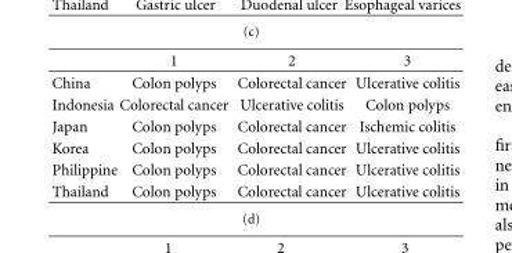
<table><thead><tr><td></td><td>1</td><td>2</td><td>3</td></tr></thead><tbody><tr><td>China</td><td>Colon polyps</td><td>Colorectal cancer</td><td>Ulcerative colitis</td></tr><tr><td>Indonesia</td><td>Colorectal cancer</td><td>Ulcerative colitis</td><td>Colon polyps</td></tr><tr><td>Japan</td><td>Colon polyps</td><td>Colorectal cancer</td><td>Ischemic colitis</td></tr><tr><td>Korea</td><td>Colon polyps</td><td>Colorectal cancer</td><td>Ulcerative colitis</td></tr><tr><td>Philippine</td><td>Colon polyps</td><td>Colorectal cancer</td><td>Ulcerative colitis</td></tr><tr><td>Thailand</td><td>Colon polyps</td><td>Colorectal cancer</td><td>Ulcerative colitis</td></tr></tbody></table>